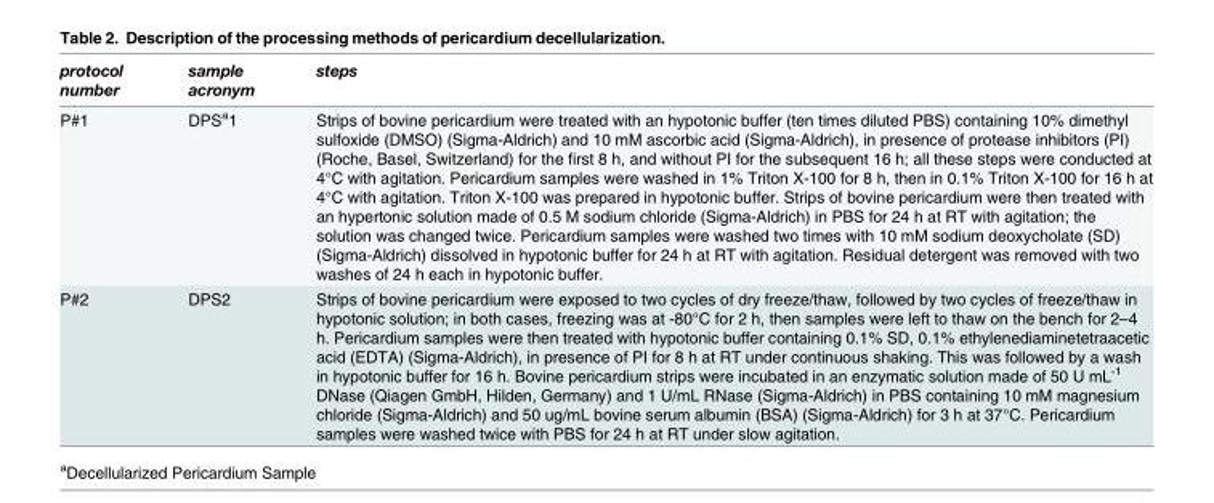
<table><thead><tr><td>protocol number</td><td>sample acronym</td><td>steps</td></tr></thead><tbody><tr><td>P#1</td><td>DPS<sup>a</sup>1</td><td>Strips of bovine pericardium were treated with an hypotonic buffer (ten times diluted PBS) containing 10% dimethyl sulfoxide (DMSO) (Sigma-Aldrich) and 10 mM ascorbic acid (Sigma-Aldrich), in presence of protease inhibitors (PI) (Roche, Basel, Switzerland) for the first 8 h, and without PI for the subsequent 16 h; all these steps were conducted at 4°C with agitation. Pericardium samples were washed in 1% Triton X-100 for 8 h, then in 0.1% Triton X-100 for 16 h at 4°C with agitation. Triton X-100 was prepared in hypotonic buffer. Strips of bovine pericardium were then treated with an hypertonic solution made of 0.5 M sodium chloride (Sigma-Aldrich) in PBS for 24 h at RT with agitation; the solution was changed twice. Pericardium samples were washed two times with 10 mM sodium deoxycholate (SD) (Sigma-Aldrich) dissolved in hypotonic buffer for 24 h at RT with agitation. Residual detergent was removed with two washes of 24 h each in hypotonic buffer.</td></tr><tr><td>P#2</td><td>DPS2</td><td>Strips of bovine pericardium were exposed to two cycles of dry freeze/thaw, followed by two cycles of freeze/thaw in hypotonic solution; in both cases, freezing was at -80°C for 2 h, then samples were left to thaw on the bench for 2–4 h. Pericardium samples were then treated with hypotonic buffer containing 0.1% SD, 0.1% ethylenediaminetetraacetic acid (EDTA) (Sigma-Aldrich), in presence of PI for 8 h at RT under continuous shaking. This was followed by a wash in hypotonic buffer for 16 h. Bovine pericardium strips were incubated in an enzymatic solution made of 50 U mL<sup>-1</sup> DNase (Qiagen GmbH, Hilden, Germany) and 1 U/mL RNase (Sigma-Aldrich) in PBS containing 10 mM magnesium chloride (Sigma-Aldrich) and 50 ug/mL bovine serum albumin (BSA) (Sigma-Aldrich) for 3 h at 37°C. Pericardium samples were washed twice with PBS for 24 h at RT under slow agitation.</td></tr></tbody></table>